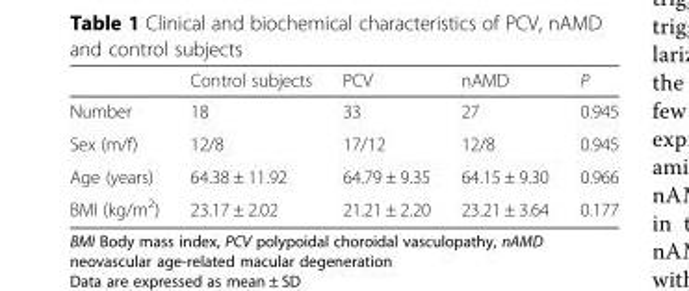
<table><thead><tr><td></td><td>Control subjects</td><td>PCV</td><td>nAMD</td><td>P</td></tr></thead><tbody><tr><td>Number</td><td>18</td><td>33</td><td>27</td><td>0.945</td></tr><tr><td>Sex (m/f)</td><td>12/8</td><td>17/12</td><td>12/8</td><td>0.945</td></tr><tr><td>Age (years)</td><td>64.38 ± 11.92</td><td>64.79 ± 9.35</td><td>64.15 ± 9.30</td><td>0.966</td></tr><tr><td>BMI (kg/m<sup>2</sup>)</td><td>23.17 ± 2.02</td><td>21.21 ± 2.20</td><td>23.21 ± 3.64</td><td>0.177</td></tr></tbody></table>